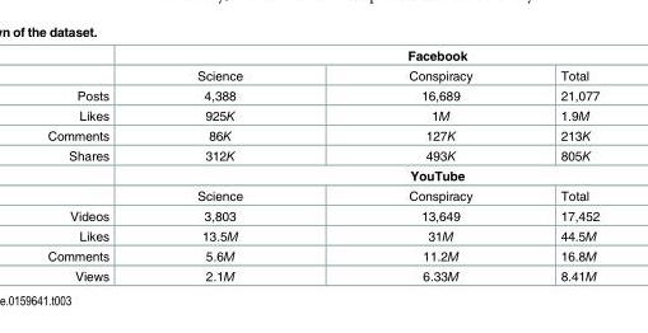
<table><thead><tr><td rowspan="2"></td><td colspan="3">Facebook</td></tr><tr><td>Science</td><td>Conspiracy</td><td>Total</td></tr></thead><tbody><tr><td>Posts</td><td>4,388</td><td>16,689</td><td>21,077</td></tr><tr><td>Likes</td><td>925K</td><td>1M</td><td>1.9M</td></tr><tr><td>Comments</td><td>86K</td><td>127K</td><td>213K</td></tr><tr><td rowspan="3">Shares</td><td>312K</td><td>493K</td><td>805K</td></tr><tr><td colspan="3">YouTube</td></tr><tr><td>Science</td><td>Conspiracy</td><td>Total</td></tr><tr><td>Videos</td><td>3,803</td><td>13,649</td><td>17,452</td></tr><tr><td>Likes</td><td>13.5M</td><td>31M</td><td>44.5M</td></tr><tr><td>Comments</td><td>5.6M</td><td>11.2M</td><td>16.8M</td></tr><tr><td>Views</td><td>2.1M</td><td>6.33M</td><td>8.41M</td></tr></tbody></table>